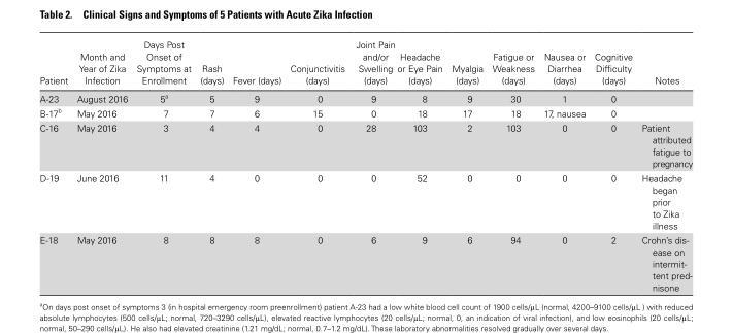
<table><thead><tr><td>Patient</td><td>Month and Year of Zika Infection</td><td>Days Post Onset of Symptoms at Enrollment</td><td>Rash (days)</td><td>Fever (days)</td><td>Conjunctivitis (days)</td><td>Joint Pain and/or Swelling (days)</td><td>Headache or Eye Pain (days)</td><td>Myalgia (days)</td><td>Fatigue or Weakness (days)</td><td>Nausea or Diarrhea (days)</td><td>Cognitive Difficulty (days)</td><td>Notes</td></tr></thead><tbody><tr><td>A-23</td><td>August 2016</td><td>5<sup>a</sup></td><td>5</td><td>9</td><td>0</td><td>9</td><td>8</td><td>9</td><td>30</td><td>1</td><td>0</td><td></td></tr><tr><td>B-17<sup>b</sup></td><td>May 2016</td><td>7</td><td>7</td><td>6</td><td>15</td><td>0</td><td>18</td><td>17</td><td>18</td><td>17, nausea</td><td>0</td><td></td></tr><tr><td>C-16</td><td>May 2016</td><td>3</td><td>4</td><td>4</td><td>0</td><td>28</td><td>103</td><td>2</td><td>103</td><td>0</td><td>0</td><td>Patient attributed fatigue to pregnancy</td></tr><tr><td>D-19</td><td>June 2016</td><td>11</td><td>4</td><td>0</td><td>0</td><td>0</td><td>52</td><td>0</td><td>0</td><td>0</td><td>0</td><td>Headache began prior to Zika illness</td></tr><tr><td>E-18</td><td>May 2016</td><td>8</td><td>8</td><td>8</td><td>0</td><td>6</td><td>9</td><td>6</td><td>94</td><td>0</td><td>2</td><td>Crohn’s dis- ease on intermit- tent pred- nisone</td></tr></tbody></table>